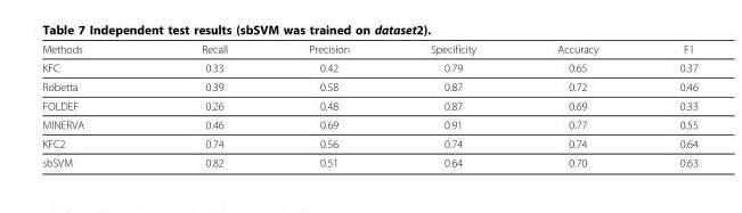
<table><thead><tr><td>Methods</td><td>Recall</td><td>Precision</td><td>Specificity</td><td>Accuracy</td><td>F1</td></tr></thead><tbody><tr><td>KFC</td><td>0.33</td><td>0.42</td><td>0.79</td><td>0.65</td><td>0.37</td></tr><tr><td>Robetta</td><td>0.39</td><td>0.58</td><td>0.87</td><td>0.72</td><td>0.46</td></tr><tr><td>FOLDEF</td><td>0.26</td><td>0.48</td><td>0.87</td><td>0.69</td><td>0.33</td></tr><tr><td>MINERVA</td><td>0.46</td><td>0.69</td><td>0.91</td><td>0.77</td><td>0.55</td></tr><tr><td>KFC2</td><td>0.74</td><td>0.56</td><td>0.74</td><td>0.74</td><td>0.64</td></tr><tr><td>sbSVM</td><td>0.82</td><td>0.51</td><td>0.64</td><td>0.70</td><td>0.63</td></tr></tbody></table>